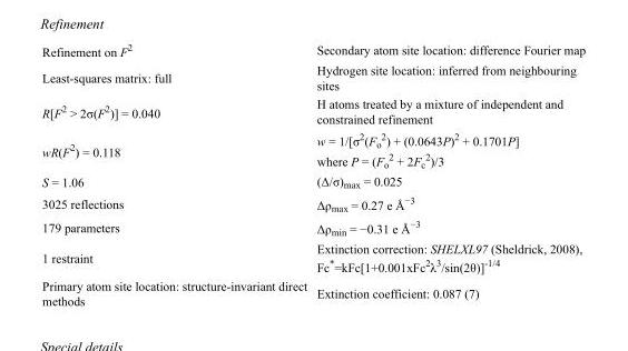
<table><tbody><tr><td>Refinement on F<sup>2</sup></td><td>Secondary atom site location: difference Fourier map</td></tr><tr><td>Least-squares matrix: full</td><td>Hydrogen site location: inferred from neighbouring sites</td></tr><tr><td>R[F<sup>2</sup> &gt; 2σ(F<sup>2</sup>)] = 0.040</td><td>H atoms treated by a mixture of independent and constrained refinement</td></tr><tr><td>wR(F<sup>2</sup>) = 0.118</td><td>w = 1/[σ<sup>2</sup>(F<sub>o</sub> <sup>2</sup>) + (0.0643P)<sup>2</sup> + 0.1701P] where P = (F<sub>o</sub> <sup>2</sup> + 2F<sub>c</sub> <sup>2</sup>)/3</td></tr><tr><td>S = 1.06</td><td>(Δ/σ)<sub>max</sub> = 0.025</td></tr><tr><td>3025 reflections</td><td>Δρ<sub>max</sub> = 0.27 e Å<sup>−3</sup></td></tr><tr><td>179 parameters</td><td>Δρ<sub>min</sub> = −0.31 e Å<sup>−3</sup></td></tr><tr><td>1 restraint</td><td>Extinction correction: SHELXL97 (Sheldrick, 2008), Fc*=kFc[1+0.001xFc<sup>2</sup>λ<sup>3</sup>/sin(2θ)]<sup>-1/4</sup></td></tr><tr><td>Primary atom site location: structure-invariant direct methods</td><td>Extinction coefficient: 0.087 (7)</td></tr></tbody></table>